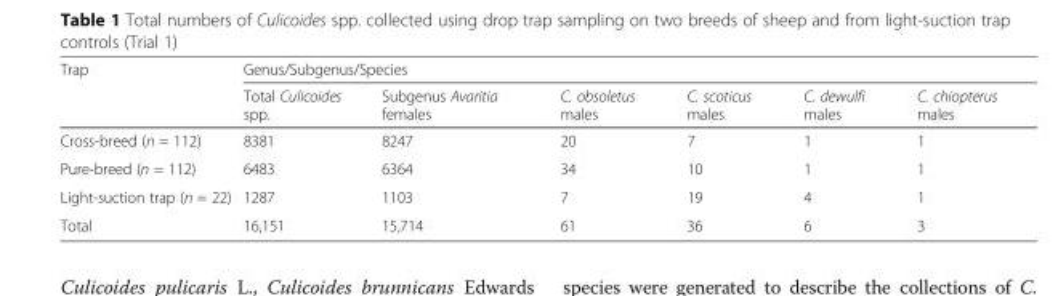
<table><thead><tr><td rowspan="2">Trap</td><td colspan="6">Genus/Subgenus/Species</td></tr><tr><td>Total Culicoides spp.</td><td>Subgenus Avaritia females</td><td>C. obsoletus males</td><td>C. scoticus males</td><td>C. dewulfi males</td><td>C. chiopterus males</td></tr></thead><tbody><tr><td>Cross-breed (n = 112)</td><td>8381</td><td>8247</td><td>20</td><td>7</td><td>1</td><td>1</td></tr><tr><td>Pure-breed (n = 112)</td><td>6483</td><td>6364</td><td>34</td><td>10</td><td>1</td><td>1</td></tr><tr><td>Light-suction trap (n = 22)</td><td>1287</td><td>1103</td><td>7</td><td>19</td><td>4</td><td>1</td></tr><tr><td>Total</td><td>16,151</td><td>15,714</td><td>61</td><td>36</td><td>6</td><td>3</td></tr></tbody></table>